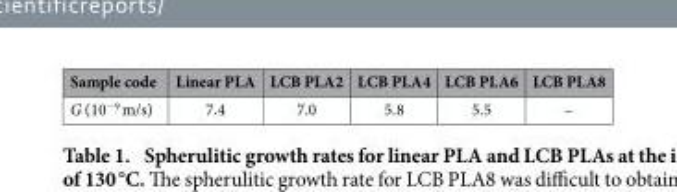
<table><thead><tr><td>Sample code</td><td>Linear PLA</td><td>LCB PLA2</td><td>LCB PLA4</td><td>LCB PLA6</td><td>LCB PLA8</td></tr></thead><tbody><tr><td>G (10<sup>−9</sup> m/s)</td><td>7.4</td><td>7.0</td><td>5.8</td><td>5.5</td><td>–</td></tr></tbody></table>